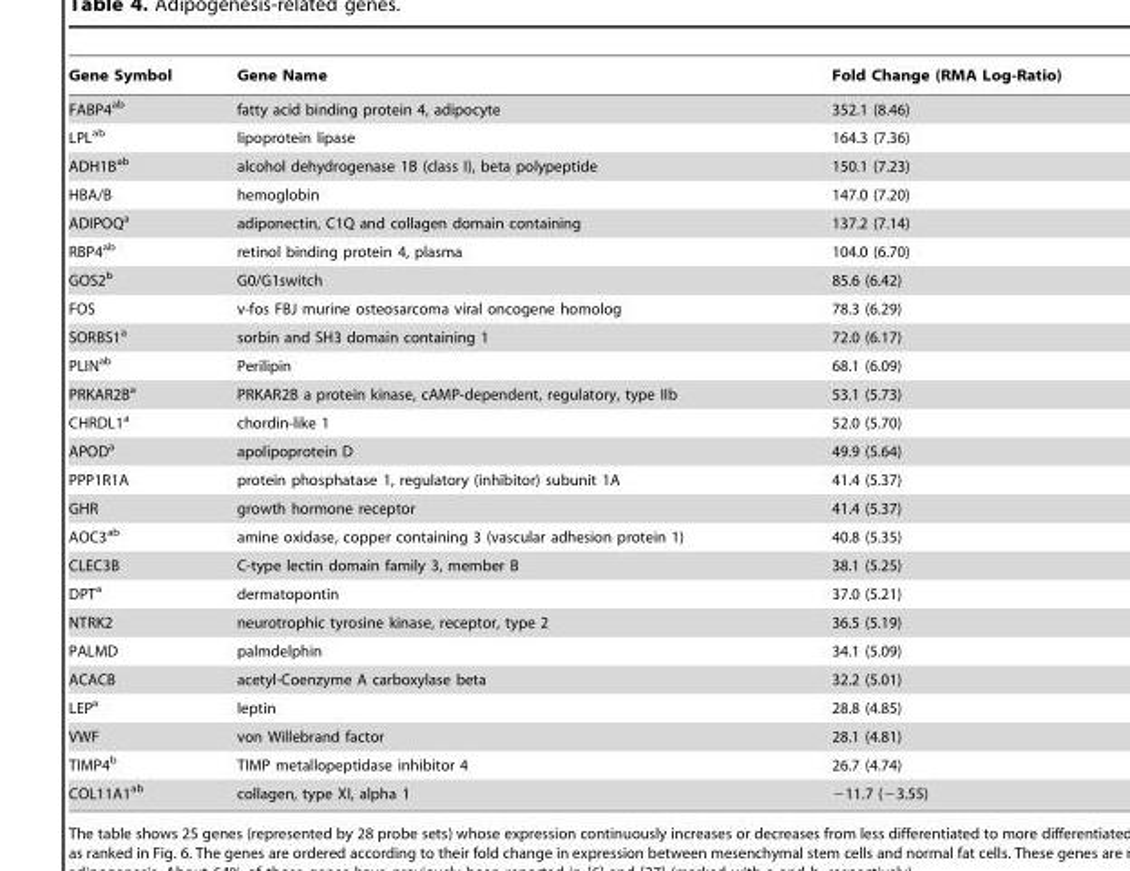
<table><thead><tr><td>Gene Symbol</td><td>Gene Name</td><td>Fold Change (RMA Log-Ratio)</td></tr></thead><tbody><tr><td>FABP4<sup>ab</sup></td><td>fatty acid binding protein 4, adipocyte</td><td>352.1 (8.46)</td></tr><tr><td>LPL<sup>ab</sup></td><td>lipoprotein lipase</td><td>164.3 (7.36)</td></tr><tr><td>ADH1B<sup>ab</sup></td><td>alcohol dehydrogenase 1B (class I), beta polypeptide</td><td>150.1 (7.23)</td></tr><tr><td>HBA/B</td><td>hemoglobin</td><td>147.0 (7.20)</td></tr><tr><td>ADIPOQ<sup>a</sup></td><td>adiponectin, C1Q and collagen domain containing</td><td>137.2 (7.14)</td></tr><tr><td>RBP4<sup>ab</sup></td><td>retinol binding protein 4, plasma</td><td>104.0 (6.70)</td></tr><tr><td>GOS2<sup>b</sup></td><td>G0/G1switch</td><td>85.6 (6.42)</td></tr><tr><td>FOS</td><td>v-fos FBJ murine osteosarcoma viral oncogene homolog</td><td>78.3 (6.29)</td></tr><tr><td>SORBS1<sup>a</sup></td><td>sorbin and SH3 domain containing 1</td><td>72.0 (6.17)</td></tr><tr><td>PLIN<sup>ab</sup></td><td>Perilipin</td><td>68.1 (6.09)</td></tr><tr><td>PRKAR2B<sup>a</sup></td><td>PRKAR2B a protein kinase, cAMP-dependent, regulatory, type IIb</td><td>53.1 (5.73)</td></tr><tr><td>CHRDL1<sup>a</sup></td><td>chordin-like 1</td><td>52.0 (5.70)</td></tr><tr><td>APOD<sup>a</sup></td><td>apolipoprotein D</td><td>49.9 (5.64)</td></tr><tr><td>PPP1R1A</td><td>protein phosphatase 1, regulatory (inhibitor) subunit 1A</td><td>41.4 (5.37)</td></tr><tr><td>GHR</td><td>growth hormone receptor</td><td>41.4 (5.37)</td></tr><tr><td>AOC3<sup>ab</sup></td><td>amine oxidase, copper containing 3 (vascular adhesion protein 1)</td><td>40.8 (5.35)</td></tr><tr><td>CLEC3B</td><td>C-type lectin domain family 3, member B</td><td>38.1 (5.25)</td></tr><tr><td>DPT<sup>a</sup></td><td>dermatopontin</td><td>37.0 (5.21)</td></tr><tr><td>NTRK2</td><td>neurotrophic tyrosine kinase, receptor, type 2</td><td>36.5 (5.19)</td></tr><tr><td>PALMD</td><td>palmdelphin</td><td>34.1 (5.09)</td></tr><tr><td>ACACB</td><td>acetyl-Coenzyme A carboxylase beta</td><td>32.2 (5.01)</td></tr><tr><td>LEP<sup>a</sup></td><td>leptin</td><td>28.8 (4.85)</td></tr><tr><td>VWF</td><td>von Willebrand factor</td><td>28.1 (4.81)</td></tr><tr><td>TIMP4<sup>b</sup></td><td>TIMP metallopeptidase inhibitor 4</td><td>26.7 (4.74)</td></tr><tr><td>COL11A1<sup>ab</sup></td><td>collagen, type XI, alpha 1</td><td>−11.7 (−3.55)</td></tr></tbody></table>